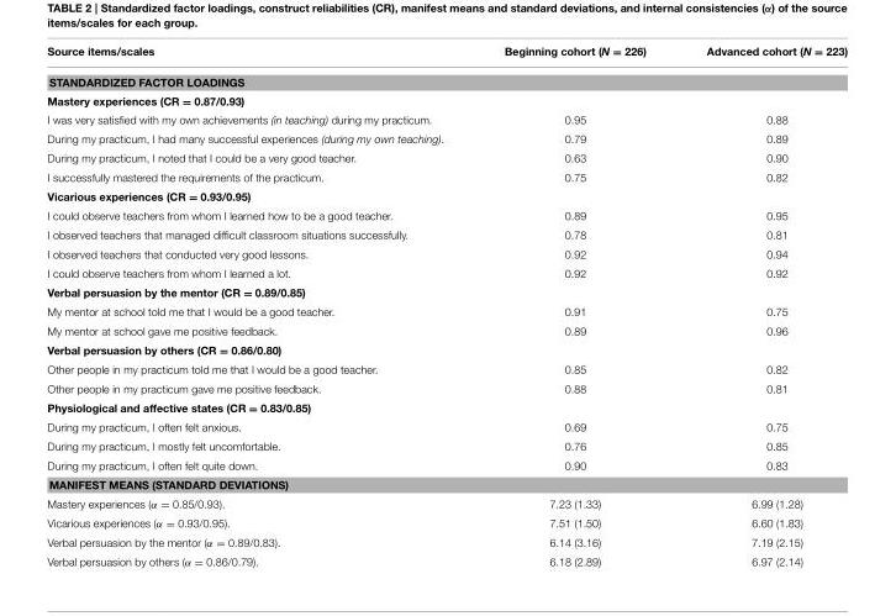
<table><thead><tr><td>Source items/scales</td><td>Beginning cohort (N = 226)</td><td>Advanced cohort (N = 223)</td></tr></thead><tbody><tr><td colspan="3">STANDARDIZED FACTOR LOADINGS</td></tr><tr><td colspan="3">Mastery experiences (CR = 0.87/0.93)</td></tr><tr><td>I was very satisfied with my own achievements (in teaching) during my practicum.</td><td>0.95</td><td>0.88</td></tr><tr><td>During my practicum, I had many successful experiences (during my own teaching).</td><td>0.79</td><td>0.89</td></tr><tr><td>During my practicum, I noted that I could be a very good teacher.</td><td>0.63</td><td>0.90</td></tr><tr><td>I successfully mastered the requirements of the practicum.</td><td>0.75</td><td>0.82</td></tr><tr><td colspan="3">Vicarious experiences (CR = 0.93/0.95)</td></tr><tr><td>I could observe teachers from whom I learned how to be a good teacher.</td><td>0.89</td><td>0.95</td></tr><tr><td>I observed teachers that managed difficult classroom situations successfully.</td><td>0.78</td><td>0.81</td></tr><tr><td>I observed teachers that conducted very good lessons.</td><td>0.92</td><td>0.94</td></tr><tr><td>I could observe teachers from whom I learned a lot.</td><td>0.92</td><td>0.92</td></tr><tr><td colspan="3">Verbal persuasion by the mentor (CR = 0.89/0.85)</td></tr><tr><td>My mentor at school told me that I would be a good teacher.</td><td>0.91</td><td>0.75</td></tr><tr><td>My mentor at school gave me positive feedback.</td><td>0.89</td><td>0.96</td></tr><tr><td colspan="3">Verbal persuasion by others (CR = 0.86/0.80)</td></tr><tr><td>Other people in my practicum told me that I would be a good teacher.</td><td>0.85</td><td>0.82</td></tr><tr><td>Other people in my practicum gave me positive feedback.</td><td>0.88</td><td>0.81</td></tr><tr><td colspan="3">Physiological and affective states (CR = 0.83/0.85)</td></tr><tr><td>During my practicum, I often felt anxious.</td><td>0.69</td><td>0.75</td></tr><tr><td>During my practicum, I mostly felt uncomfortable.</td><td>0.76</td><td>0.85</td></tr><tr><td>During my practicum, I often felt quite down.</td><td>0.90</td><td>0.83</td></tr><tr><td colspan="3">MANIFEST MEANS (STANDARD DEVIATIONS)</td></tr><tr><td>Mastery experiences (α = 0.85/0.93).</td><td>7.23 (1.33)</td><td>6.99 (1.28)</td></tr><tr><td>Vicarious experiences (α = 0.93/0.95).</td><td>7.51 (1.50)</td><td>6.60 (1.83)</td></tr><tr><td>Verbal persuasion by the mentor (α = 0.89/0.83).</td><td>6.14 (3.16)</td><td>7.19 (2.15)</td></tr><tr><td>Verbal persuasion by others (α = 0.86/0.79).</td><td>6.18 (2.89)</td><td>6.97 (2.14)</td></tr></tbody></table>